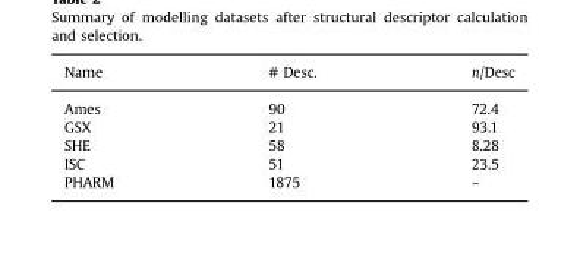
<table><thead><tr><td>Name</td><td># Desc.</td><td>n/Desc</td></tr></thead><tbody><tr><td>Ames</td><td>90</td><td>72.4</td></tr><tr><td>GSX</td><td>21</td><td>93.1</td></tr><tr><td>SHE</td><td>58</td><td>8.28</td></tr><tr><td>ISC</td><td>51</td><td>23.5</td></tr><tr><td>PHARM</td><td>1875</td><td>–</td></tr></tbody></table>